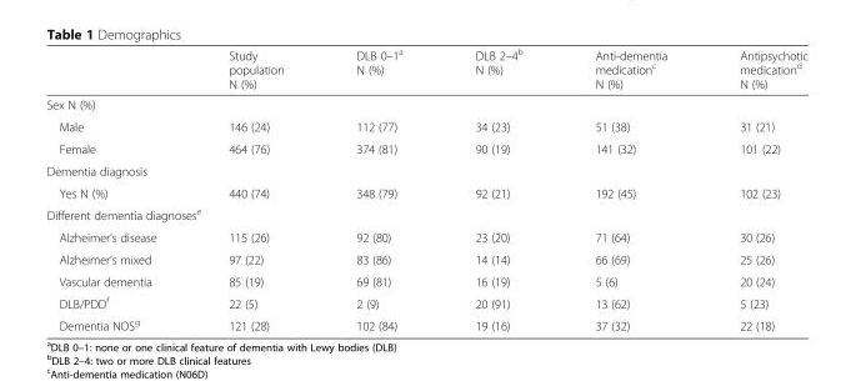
<table><thead><tr><td></td><td>Study population N (%)</td><td>DLB 0–1<sup>a</sup> N (%)</td><td>DLB 2–4<sup>b</sup> N (%)</td><td>Anti-dementia medication<sup>c</sup> N (%)</td><td>Antipsychotic medication<sup>d</sup> N (%)</td></tr></thead><tbody><tr><td colspan="6">Sex N (%)</td></tr><tr><td>Male</td><td>146 (24)</td><td>112 (77)</td><td>34 (23)</td><td>51 (38)</td><td>31 (21)</td></tr><tr><td>Female</td><td>464 (76)</td><td>374 (81)</td><td>90 (19)</td><td>141 (32)</td><td>101 (22)</td></tr><tr><td colspan="6">Dementia diagnosis</td></tr><tr><td>Yes N (%)</td><td>440 (74)</td><td>348 (79)</td><td>92 (21)</td><td>192 (45)</td><td>102 (23)</td></tr><tr><td colspan="6">Different dementia diagnoses<sup>e</sup></td></tr><tr><td>Alzheimer’s disease</td><td>115 (26)</td><td>92 (80)</td><td>23 (20)</td><td>71 (64)</td><td>30 (26)</td></tr><tr><td>Alzheimer’s mixed</td><td>97 (22)</td><td>83 (86)</td><td>14 (14)</td><td>66 (69)</td><td>25 (26)</td></tr><tr><td>Vascular dementia</td><td>85 (19)</td><td>69 (81)</td><td>16 (19)</td><td>5 (6)</td><td>20 (24)</td></tr><tr><td>DLB/PDD<sup>f</sup></td><td>22 (5)</td><td>2 (9)</td><td>20 (91)</td><td>13 (62)</td><td>5 (23)</td></tr><tr><td>Dementia NOS<sup>g</sup></td><td>121 (28)</td><td>102 (84)</td><td>19 (16)</td><td>37 (32)</td><td>22 (18)</td></tr></tbody></table>